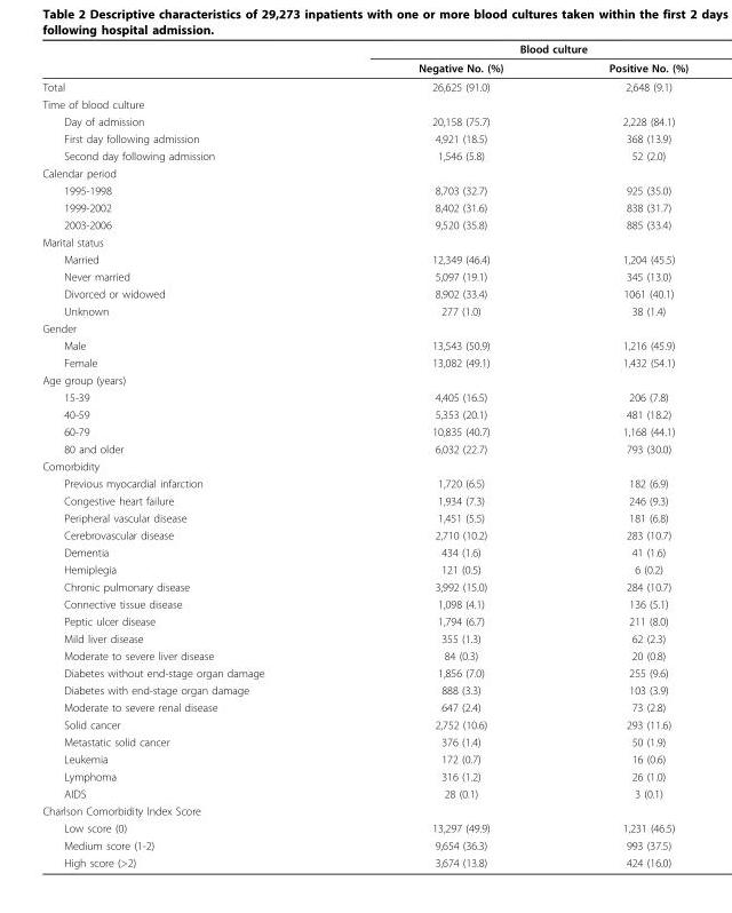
<table><thead><tr><td rowspan="2"></td><td colspan="2">Blood culture</td></tr><tr><td>Negative No. (%)</td><td>Positive No. (%)</td></tr></thead><tbody><tr><td>Total</td><td>26,625 (91.0)</td><td>2,648 (9.1)</td></tr><tr><td colspan="3">Time of blood culture</td></tr><tr><td>Day of admission</td><td>20,158 (75.7)</td><td>2,228 (84.1)</td></tr><tr><td>First day following admission</td><td>4,921 (18.5)</td><td>368 (13.9)</td></tr><tr><td>Second day following admission</td><td>1,546 (5.8)</td><td>52 (2.0)</td></tr><tr><td colspan="3">Calendar period</td></tr><tr><td>1995-1998</td><td>8,703 (32.7)</td><td>925 (35.0)</td></tr><tr><td>1999-2002</td><td>8,402 (31.6)</td><td>838 (31.7)</td></tr><tr><td>2003-2006</td><td>9,520 (35.8)</td><td>885 (33.4)</td></tr><tr><td colspan="3">Marital status</td></tr><tr><td>Married</td><td>12,349 (46.4)</td><td>1,204 (45.5)</td></tr><tr><td>Never married</td><td>5,097 (19.1)</td><td>345 (13.0)</td></tr><tr><td>Divorced or widowed</td><td>8,902 (33.4)</td><td>1061 (40.1)</td></tr><tr><td>Unknown</td><td>277 (1.0)</td><td>38 (1.4)</td></tr><tr><td colspan="3">Gender</td></tr><tr><td>Male</td><td>13,543 (50.9)</td><td>1,216 (45.9)</td></tr><tr><td>Female</td><td>13,082 (49.1)</td><td>1,432 (54.1)</td></tr><tr><td colspan="3">Age group (years)</td></tr><tr><td>15-39</td><td>4,405 (16.5)</td><td>206 (7.8)</td></tr><tr><td>40-59</td><td>5,353 (20.1)</td><td>481 (18.2)</td></tr><tr><td>60-79</td><td>10,835 (40.7)</td><td>1,168 (44.1)</td></tr><tr><td>80 and older</td><td>6,032 (22.7)</td><td>793 (30.0)</td></tr><tr><td colspan="3">Comorbidity</td></tr><tr><td>Previous myocardial infarction</td><td>1,720 (6.5)</td><td>182 (6.9)</td></tr><tr><td>Congestive heart failure</td><td>1,934 (7.3)</td><td>246 (9.3)</td></tr><tr><td>Peripheral vascular disease</td><td>1,451 (5.5)</td><td>181 (6.8)</td></tr><tr><td>Cerebrovascular disease</td><td>2,710 (10.2)</td><td>283 (10.7)</td></tr><tr><td>Dementia</td><td>434 (1.6)</td><td>41 (1.6)</td></tr><tr><td>Hemiplegia</td><td>121 (0.5)</td><td>6 (0.2)</td></tr><tr><td>Chronic pulmonary disease</td><td>3,992 (15.0)</td><td>284 (10.7)</td></tr><tr><td>Connective tissue disease</td><td>1,098 (4.1)</td><td>136 (5.1)</td></tr><tr><td>Peptic ulcer disease</td><td>1,794 (6.7)</td><td>211 (8.0)</td></tr><tr><td>Mild liver disease</td><td>355 (1.3)</td><td>62 (2.3)</td></tr><tr><td>Moderate to severe liver disease</td><td>84 (0.3)</td><td>20 (0.8)</td></tr><tr><td>Diabetes without end-stage organ damage</td><td>1,856 (7.0)</td><td>255 (9.6)</td></tr><tr><td>Diabetes with end-stage organ damage</td><td>888 (3.3)</td><td>103 (3.9)</td></tr><tr><td>Moderate to severe renal disease</td><td>647 (2.4)</td><td>73 (2.8)</td></tr><tr><td>Solid cancer</td><td>2,752 (10.6)</td><td>293 (11.6)</td></tr><tr><td>Metastatic solid cancer</td><td>376 (1.4)</td><td>50 (1.9)</td></tr><tr><td>Leukemia</td><td>172 (0.7)</td><td>16 (0.6)</td></tr><tr><td>Lymphoma</td><td>316 (1.2)</td><td>26 (1.0)</td></tr><tr><td>AIDS</td><td>28 (0.1)</td><td>3 (0.1)</td></tr><tr><td colspan="3">Charlson Comorbidity Index Score</td></tr><tr><td>Low score (0)</td><td>13,297 (49.9)</td><td>1,231 (46.5)</td></tr><tr><td>Medium score (1-2)</td><td>9,654 (36.3)</td><td>993 (37.5)</td></tr><tr><td>High score (&gt;2)</td><td>3,674 (13.8)</td><td>424 (16.0)</td></tr></tbody></table>